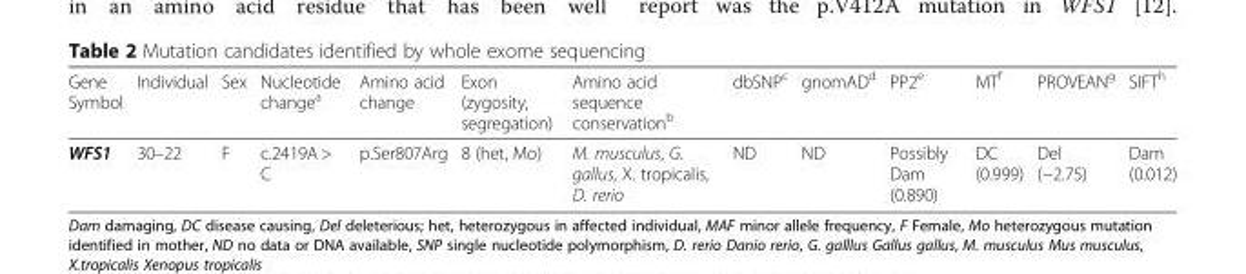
<table><thead><tr><td>Gene Symbol</td><td>Individual</td><td>Sex</td><td>Nucleotide change<sup>a</sup></td><td>Amino acid change</td><td>Exon (zygosity, segregation)</td><td>Amino acid sequence conservation<sup>b</sup></td><td>dbSNP<sup>c</sup></td><td>gnomAD<sup>d</sup></td><td>PP2<sup>e</sup></td><td>MT<sup>f</sup></td><td>PROVEAN<sup>g</sup></td><td>SIFT<sup>h</sup></td></tr></thead><tbody><tr><td>WFS1</td><td>30–22</td><td>F</td><td>c.2419A &gt; C</td><td>p.Ser807Arg</td><td>8 (het, Mo)</td><td>M. musculus, G. gallus, X. tropicalis, D. rerio</td><td>ND</td><td>ND</td><td>Possibly Dam (0.890)</td><td>DC (0.999)</td><td>Del (−2.75)</td><td>Dam (0.012)</td></tr></tbody></table>